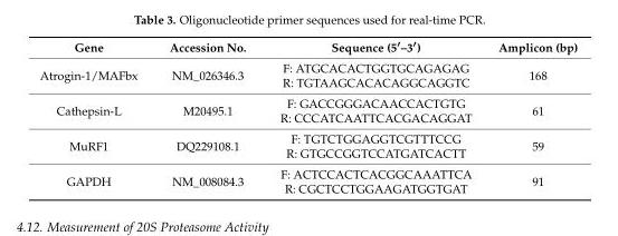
<table><thead><tr><td>Gene</td><td>Accession No.</td><td>Sequence (5′–3′)</td><td>Amplicon (bp)</td></tr></thead><tbody><tr><td>Atrogin-1/MAFbx</td><td>NM_026346.3</td><td>F: ATGCACACTGGTGCAGAGAG R: TGTAAGCACACAGGCAGGTC</td><td>168</td></tr><tr><td>Cathepsin-L</td><td>M20495.1</td><td>F: GACCGGGACAACCACTGTG R: CCCATCAATTCACGACAGGAT</td><td>61</td></tr><tr><td>MuRF1</td><td>DQ229108.1</td><td>F: TGTCTGGAGGTCGTTTCCG R: GTGCCGGTCCATGATCACTT</td><td>59</td></tr><tr><td>GAPDH</td><td>NM_008084.3</td><td>F: ACTCCACTCACGGCAAATTCA R: CGCTCCTGGAAGATGGTGAT</td><td>91</td></tr></tbody></table>